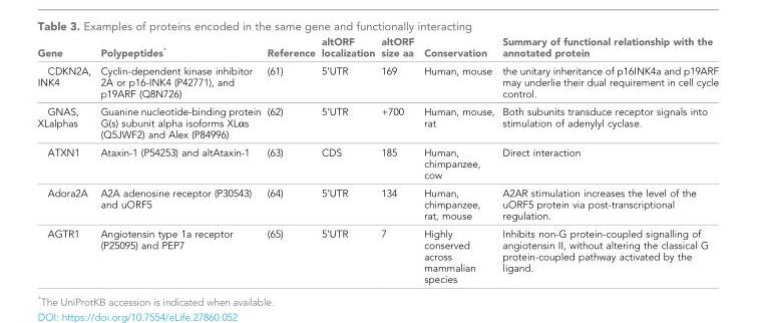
<table><thead><tr><td>Gene</td><td>Polypeptides*</td><td>Reference</td><td>altORF localization</td><td>altORF size aa</td><td>Conservation</td><td>Summary of functional relationship with the annotated protein</td></tr></thead><tbody><tr><td>CDKN2A, INK4</td><td>Cyclin-dependent kinase inhibitor 2A or p16-INK4 (P42771), and p19ARF (Q8N726)</td><td>(61)</td><td>5’UTR</td><td>169</td><td>Human, mouse</td><td>the unitary inheritance of p16INK4a and p19ARF may underlie their dual requirement in cell cycle control.</td></tr><tr><td>GNAS, XLalphas</td><td>Guanine nucleotide-binding protein G(s) subunit alpha isoforms XLαs (Q5JWF2) and Alex (P84996)</td><td>(62)</td><td>5’UTR</td><td>+700</td><td>Human, mouse, rat</td><td>Both subunits transduce receptor signals into stimulation of adenylyl cyclase.</td></tr><tr><td>ATXN1</td><td>Ataxin-1 (P54253) and altAtaxin-1</td><td>(63)</td><td>CDS</td><td>185</td><td>Human, chimpanzee, cow</td><td>Direct interaction</td></tr><tr><td>Adora2A</td><td>A2A adenosine receptor (P30543) and uORF5</td><td>(64)</td><td>5’UTR</td><td>134</td><td>Human, chimpanzee, rat, mouse</td><td>A2AR stimulation increases the level of the uORF5 protein via post-transcriptional regulation.</td></tr><tr><td>AGTR1</td><td>Angiotensin type 1a receptor (P25095) and PEP7</td><td>(65)</td><td>5’UTR</td><td>7</td><td>Highly conserved across mammalian species</td><td>Inhibits non-G protein-coupled signalling of angiotensin II, without altering the classical G protein-coupled pathway activated by the ligand.</td></tr></tbody></table>